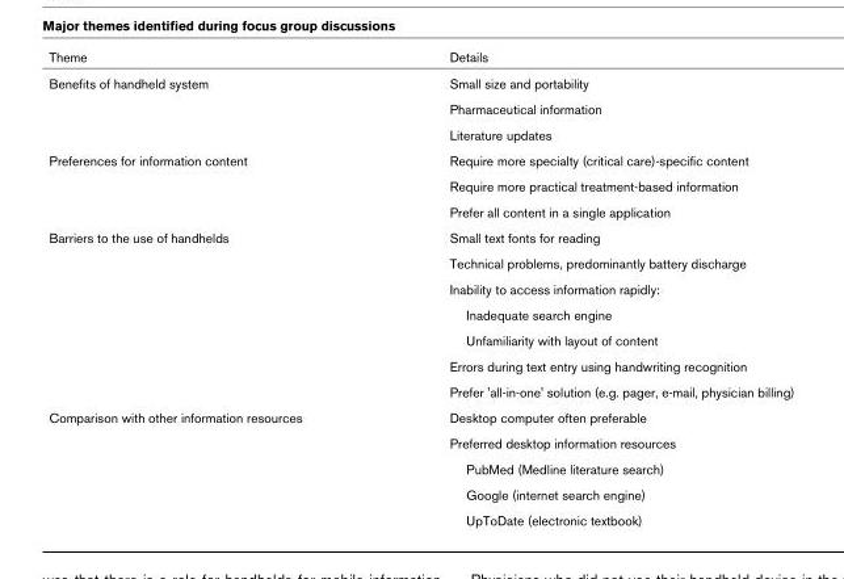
<table><thead><tr><td>Theme</td><td>Details</td></tr></thead><tbody><tr><td rowspan="3">Benefits of handheld system</td><td>Small size and portability</td></tr><tr><td>Pharmaceutical information</td></tr><tr><td>Literature updates</td></tr><tr><td rowspan="3">Preferences for information content</td><td>Require more specialty (critical care)-specific content</td></tr><tr><td>Require more practical treatment-based information</td></tr><tr><td>Prefer all content in a single application</td></tr><tr><td rowspan="7">Barriers to the use of handhelds</td><td>Small text fonts for reading</td></tr><tr><td>Technical problems, predominantly battery discharge</td></tr><tr><td>Inability to access information rapidly:</td></tr><tr><td>Inadequate search engine</td></tr><tr><td>Unfamiliarity with layout of content</td></tr><tr><td>Errors during text entry using handwriting recognition</td></tr><tr><td>Prefer &#x27;all-in-one&#x27; solution (e.g. pager, e-mail, physician billing)</td></tr><tr><td rowspan="5">Comparison with other information resources</td><td>Desktop computer often preferable</td></tr><tr><td>Preferred desktop information resources</td></tr><tr><td>PubMed (Medline literature search)</td></tr><tr><td>Google (internet search engine)</td></tr><tr><td>UpToDate (electronic textbook)</td></tr></tbody></table>